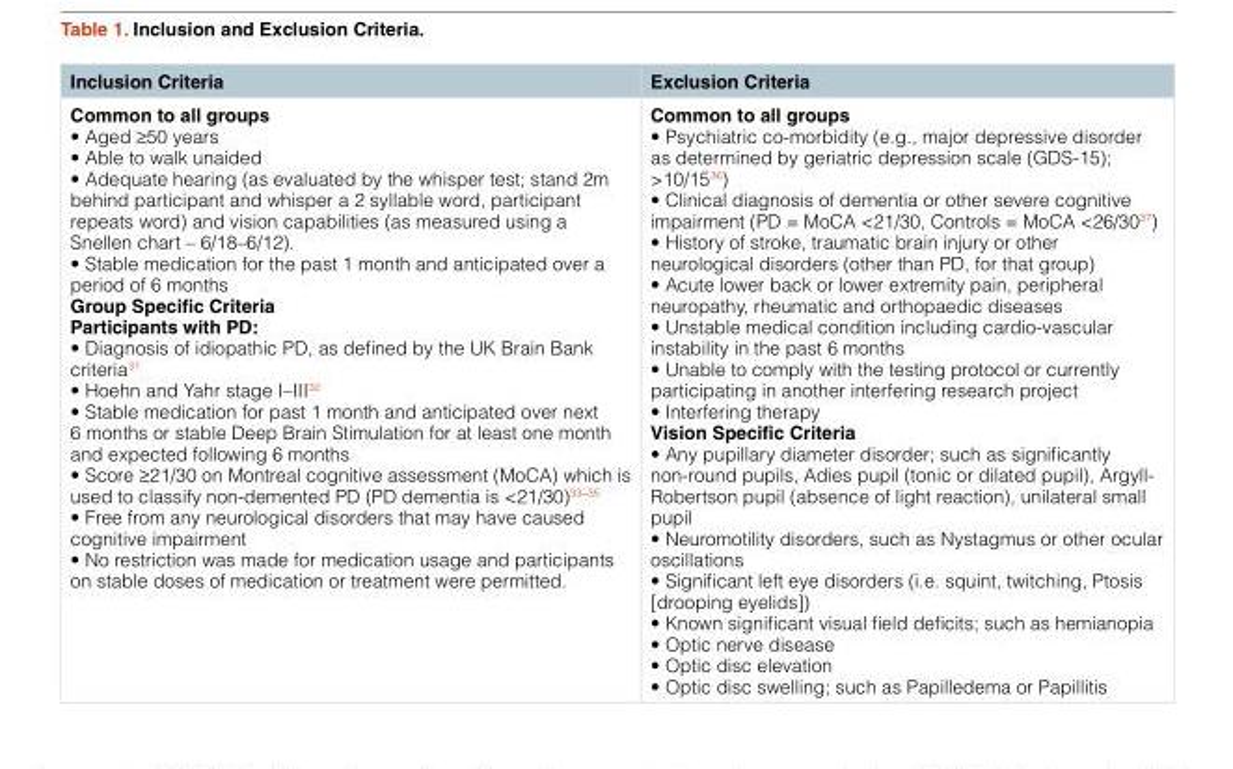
<table><thead><tr><td>Inclusion Criteria</td><td>Exclusion Criteria</td></tr></thead><tbody><tr><td>Common to all groups • Aged ≥50 years • Able to walk unaided • Adequate hearing (as evaluated by the whisper test; stand 2m behind participant and whisper a 2 syllable word, participant repeats word) and vision capabilities (as measured using a Snellen chart – 6/18–6/12). • Stable medication for the past 1 month and anticipated over a period of 6 months Group Specific Criteria Participants with PD: • Diagnosis of idiopathic PD, as defined by the UK Brain Bank criteria<sup>31</sup> • Hoehn and Yahr stage I–III<sup>32</sup> • Stable medication for past 1 month and anticipated over next 6 months or stable Deep Brain Stimulation for at least one month and expected following 6 months • Score ≥21/30 on Montreal cognitive assessment (MoCA) which is used to classify non-demented PD (PD dementia is &lt;21/30)<sup>33–35</sup> • Free from any neurological disorders that may have caused cognitive impairment • No restriction was made for medication usage and participants on stable doses of medication or treatment were permitted.</td><td>Common to all groups • Psychiatric co-morbidity (e.g., major depressive disorder as determined by geriatric depression scale (GDS-15); &gt;10/15<sup>36</sup>) • Clinical diagnosis of dementia or other severe cognitive impairment (PD = MoCA &lt;21/30, Controls = MoCA &lt;26/30<sup>37</sup>) • History of stroke, traumatic brain injury or other neurological disorders (other than PD, for that group) • Acute lower back or lower extremity pain, peripheral neuropathy, rheumatic and orthopaedic diseases • Unstable medical condition including cardio-vascular instability in the past 6 months • Unable to comply with the testing protocol or currently participating in another interfering research project • Interfering therapy Vision Specific Criteria • Any pupillary diameter disorder; such as significantly non-round pupils, Adies pupil (tonic or dilated pupil), Argyll- Robertson pupil (absence of light reaction), unilateral small pupil • Neuromotility disorders, such as Nystagmus or other ocular oscillations • Significant left eye disorders (i.e. squint, twitching, Ptosis [drooping eyelids]) • Known significant visual field deficits; such as hemianopia • Optic nerve disease • Optic disc elevation • Optic disc swelling; such as Papilledema or Papillitis</td></tr></tbody></table>